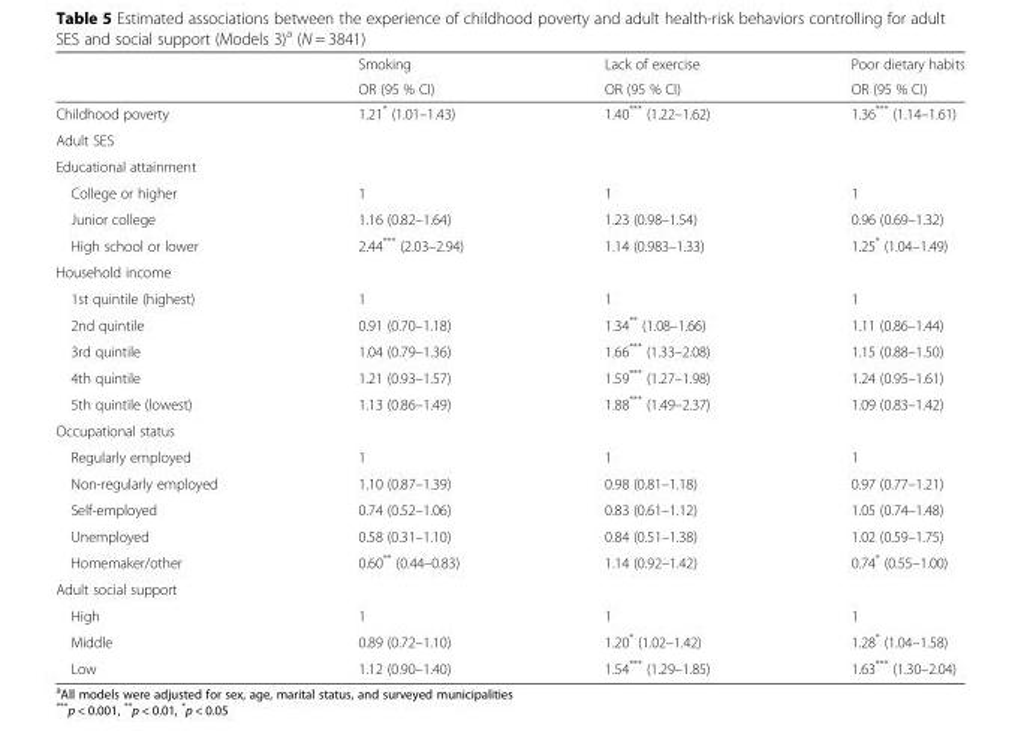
<table><thead><tr><td rowspan="2"></td><td rowspan="2">Smoking OR (95 % CI)</td><td rowspan="2">Lack of exercise OR (95 % CI)</td><td rowspan="2">Poor dietary habits OR (95 % CI)</td></tr><tr></tr></thead><tbody><tr><td>Childhood poverty</td><td>1.21* (1.01–1.43)</td><td>1.40*** (1.22–1.62)</td><td>1.36*** (1.14–1.61)</td></tr><tr><td colspan="4">Adult SES</td></tr><tr><td colspan="4">Educational attainment</td></tr><tr><td>College or higher</td><td>1</td><td>1</td><td>1</td></tr><tr><td>Junior college</td><td>1.16 (0.82–1.64)</td><td>1.23 (0.98–1.54)</td><td>0.96 (0.69–1.32)</td></tr><tr><td>High school or lower</td><td>2.44*** (2.03–2.94)</td><td>1.14 (0.983–1.33)</td><td>1.25* (1.04–1.49)</td></tr><tr><td colspan="4">Household income</td></tr><tr><td>1st quintile (highest)</td><td>1</td><td>1</td><td>1</td></tr><tr><td>2nd quintile</td><td>0.91 (0.70–1.18)</td><td>1.34** (1.08–1.66)</td><td>1.11 (0.86–1.44)</td></tr><tr><td>3rd quintile</td><td>1.04 (0.79–1.36)</td><td>1.66*** (1.33–2.08)</td><td>1.15 (0.88–1.50)</td></tr><tr><td>4th quintile</td><td>1.21 (0.93–1.57)</td><td>1.59*** (1.27–1.98)</td><td>1.24 (0.95–1.61)</td></tr><tr><td>5th quintile (lowest)</td><td>1.13 (0.86–1.49)</td><td>1.88*** (1.49–2.37)</td><td>1.09 (0.83–1.42)</td></tr><tr><td colspan="4">Occupational status</td></tr><tr><td>Regularly employed</td><td>1</td><td>1</td><td>1</td></tr><tr><td>Non-regularly employed</td><td>1.10 (0.87–1.39)</td><td>0.98 (0.81–1.18)</td><td>0.97 (0.77–1.21)</td></tr><tr><td>Self-employed</td><td>0.74 (0.52–1.06)</td><td>0.83 (0.61–1.12)</td><td>1.05 (0.74–1.48)</td></tr><tr><td>Unemployed</td><td>0.58 (0.31–1.10)</td><td>0.84 (0.51–1.38)</td><td>1.02 (0.59–1.75)</td></tr><tr><td>Homemaker/other</td><td>0.60** (0.44–0.83)</td><td>1.14 (0.92–1.42)</td><td>0.74* (0.55–1.00)</td></tr><tr><td colspan="4">Adult social support</td></tr><tr><td>High</td><td>1</td><td>1</td><td>1</td></tr><tr><td>Middle</td><td>0.89 (0.72–1.10)</td><td>1.20* (1.02–1.42)</td><td>1.28* (1.04–1.58)</td></tr><tr><td>Low</td><td>1.12 (0.90–1.40)</td><td>1.54*** (1.29–1.85)</td><td>1.63*** (1.30–2.04)</td></tr></tbody></table>